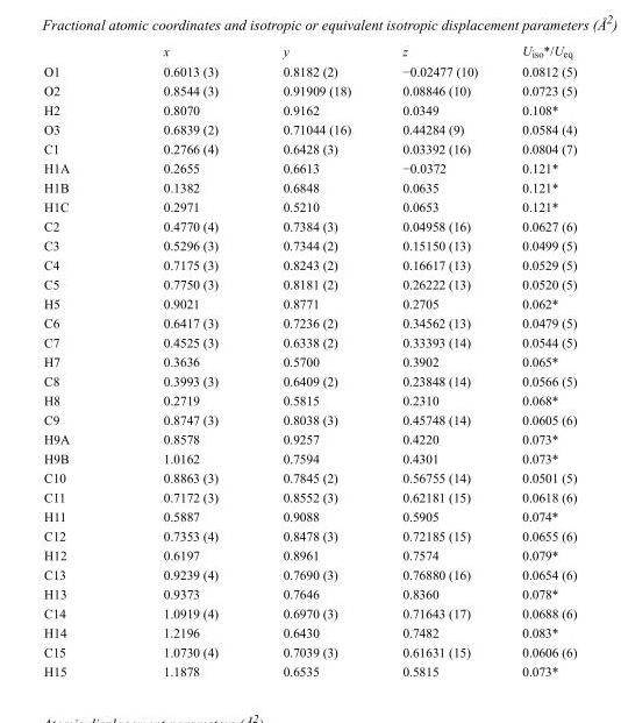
<table><thead><tr><td></td><td>x</td><td>y</td><td>z</td><td>U<sub>iso</sub>*/U<sub>eq</sub></td></tr></thead><tbody><tr><td>O1</td><td>0.6013 (3)</td><td>0.8182 (2)</td><td>−0.02477 (10)</td><td>0.0812 (5)</td></tr><tr><td>O2</td><td>0.8544 (3)</td><td>0.91909 (18)</td><td>0.08846 (10)</td><td>0.0723 (5)</td></tr><tr><td>H2</td><td>0.8070</td><td>0.9162</td><td>0.0349</td><td>0.108*</td></tr><tr><td>O3</td><td>0.6839 (2)</td><td>0.71044 (16)</td><td>0.44284 (9)</td><td>0.0584 (4)</td></tr><tr><td>C1</td><td>0.2766 (4)</td><td>0.6428 (3)</td><td>0.03392 (16)</td><td>0.0804 (7)</td></tr><tr><td>H1A</td><td>0.2655</td><td>0.6613</td><td>−0.0372</td><td>0.121*</td></tr><tr><td>H1B</td><td>0.1382</td><td>0.6848</td><td>0.0635</td><td>0.121*</td></tr><tr><td>H1C</td><td>0.2971</td><td>0.5210</td><td>0.0653</td><td>0.121*</td></tr><tr><td>C2</td><td>0.4770 (4)</td><td>0.7384 (3)</td><td>0.04958 (16)</td><td>0.0627 (6)</td></tr><tr><td>C3</td><td>0.5296 (3)</td><td>0.7344 (2)</td><td>0.15150 (13)</td><td>0.0499 (5)</td></tr><tr><td>C4</td><td>0.7175 (3)</td><td>0.8243 (2)</td><td>0.16617 (13)</td><td>0.0529 (5)</td></tr><tr><td>C5</td><td>0.7750 (3)</td><td>0.8181 (2)</td><td>0.26222 (13)</td><td>0.0520 (5)</td></tr><tr><td>H5</td><td>0.9021</td><td>0.8771</td><td>0.2705</td><td>0.062*</td></tr><tr><td>C6</td><td>0.6417 (3)</td><td>0.7236 (2)</td><td>0.34562 (13)</td><td>0.0479 (5)</td></tr><tr><td>C7</td><td>0.4525 (3)</td><td>0.6338 (2)</td><td>0.33393 (14)</td><td>0.0544 (5)</td></tr><tr><td>H7</td><td>0.3636</td><td>0.5700</td><td>0.3902</td><td>0.065*</td></tr><tr><td>C8</td><td>0.3993 (3)</td><td>0.6409 (2)</td><td>0.23848 (14)</td><td>0.0566 (5)</td></tr><tr><td>H8</td><td>0.2719</td><td>0.5815</td><td>0.2310</td><td>0.068*</td></tr><tr><td>C9</td><td>0.8747 (3)</td><td>0.8038 (3)</td><td>0.45748 (14)</td><td>0.0605 (6)</td></tr><tr><td>H9A</td><td>0.8578</td><td>0.9257</td><td>0.4220</td><td>0.073*</td></tr><tr><td>H9B</td><td>1.0162</td><td>0.7594</td><td>0.4301</td><td>0.073*</td></tr><tr><td>C10</td><td>0.8863 (3)</td><td>0.7845 (2)</td><td>0.56755 (14)</td><td>0.0501 (5)</td></tr><tr><td>C11</td><td>0.7172 (3)</td><td>0.8552 (3)</td><td>0.62181 (15)</td><td>0.0618 (6)</td></tr><tr><td>H11</td><td>0.5887</td><td>0.9088</td><td>0.5905</td><td>0.074*</td></tr><tr><td>C12</td><td>0.7353 (4)</td><td>0.8478 (3)</td><td>0.72185 (15)</td><td>0.0655 (6)</td></tr><tr><td>H12</td><td>0.6197</td><td>0.8961</td><td>0.7574</td><td>0.079*</td></tr><tr><td>C13</td><td>0.9239 (4)</td><td>0.7690 (3)</td><td>0.76880 (16)</td><td>0.0654 (6)</td></tr><tr><td>H13</td><td>0.9373</td><td>0.7646</td><td>0.8360</td><td>0.078*</td></tr><tr><td>C14</td><td>1.0919 (4)</td><td>0.6970 (3)</td><td>0.71643 (17)</td><td>0.0688 (6)</td></tr><tr><td>H14</td><td>1.2196</td><td>0.6430</td><td>0.7482</td><td>0.083*</td></tr><tr><td>C15</td><td>1.0730 (4)</td><td>0.7039 (3)</td><td>0.61631 (15)</td><td>0.0606 (6)</td></tr><tr><td>H15</td><td>1.1878</td><td>0.6535</td><td>0.5815</td><td>0.073*</td></tr></tbody></table>